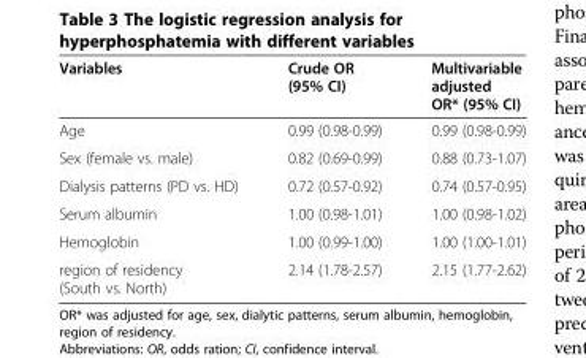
<table><thead><tr><td>Variables</td><td>Crude OR (95% CI)</td><td>Multivariable adjusted OR* (95% CI)</td></tr></thead><tbody><tr><td>Age</td><td>0.99 (0.98-0.99)</td><td>0.99 (0.98-0.99)</td></tr><tr><td>Sex (female vs. male)</td><td>0.82 (0.69-0.99)</td><td>0.88 (0.73-1.07)</td></tr><tr><td>Dialysis patterns (PD vs. HD)</td><td>0.72 (0.57-0.92)</td><td>0.74 (0.57-0.95)</td></tr><tr><td>Serum albumin</td><td>1.00 (0.98-1.01)</td><td>1.00 (0.98-1.02)</td></tr><tr><td>Hemoglobin</td><td>1.00 (0.99-1.00)</td><td>1.00 (1.00-1.01)</td></tr><tr><td>region of residency (South vs. North)</td><td>2.14 (1.78-2.57)</td><td>2.15 (1.77-2.62)</td></tr></tbody></table>